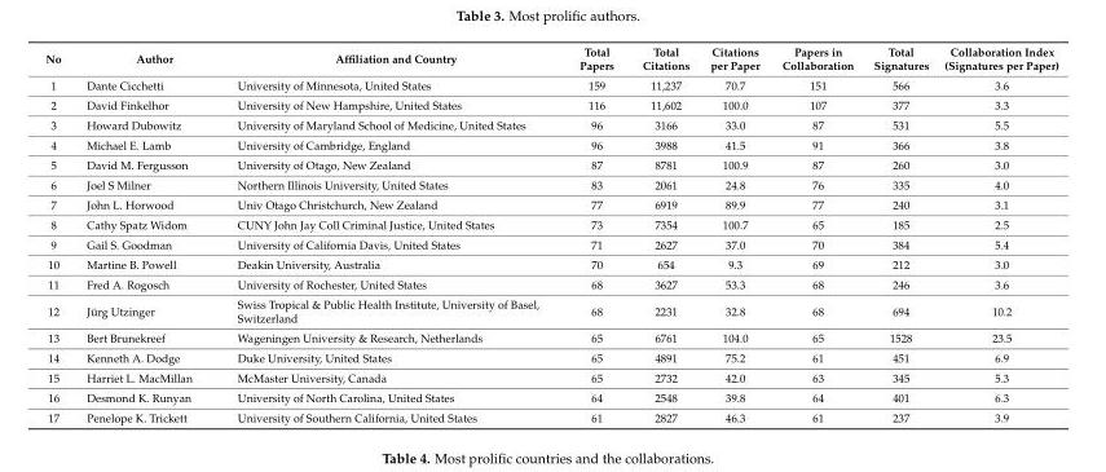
<table><thead><tr><td>No</td><td>Author</td><td>Affiliation and Country</td><td>Total Papers</td><td>Total Citations</td><td>Citations per Paper</td><td>Papers in Collaboration</td><td>Total Signatures</td><td>Collaboration Index (Signatures per Paper)</td></tr></thead><tbody><tr><td>1</td><td>Dante Cicchetti</td><td>University of Minnesota, United States</td><td>159</td><td>11,237</td><td>70.7</td><td>151</td><td>566</td><td>3.6</td></tr><tr><td>2</td><td>David Finkelhor</td><td>University of New Hampshire, United States</td><td>116</td><td>11,602</td><td>100.0</td><td>107</td><td>377</td><td>3.3</td></tr><tr><td>3</td><td>Howard Dubowitz</td><td>University of Maryland School of Medicine, United States</td><td>96</td><td>3166</td><td>33.0</td><td>87</td><td>531</td><td>5.5</td></tr><tr><td>4</td><td>Michael E. Lamb</td><td>University of Cambridge, England</td><td>96</td><td>3988</td><td>41.5</td><td>91</td><td>366</td><td>3.8</td></tr><tr><td>5</td><td>David M. Fergusson</td><td>University of Otago, New Zealand</td><td>87</td><td>8781</td><td>100.9</td><td>87</td><td>260</td><td>3.0</td></tr><tr><td>6</td><td>Joel S Milner</td><td>Northern Illinois University, United States</td><td>83</td><td>2061</td><td>24.8</td><td>76</td><td>335</td><td>4.0</td></tr><tr><td>7</td><td>John L. Horwood</td><td>Univ Otago Christchurch, New Zealand</td><td>77</td><td>6919</td><td>89.9</td><td>77</td><td>240</td><td>3.1</td></tr><tr><td>8</td><td>Cathy Spatz Widom</td><td>CUNY John Jay Coll Criminal Justice, United States</td><td>73</td><td>7354</td><td>100.7</td><td>65</td><td>185</td><td>2.5</td></tr><tr><td>9</td><td>Gail S. Goodman</td><td>University of California Davis, United States</td><td>71</td><td>2627</td><td>37.0</td><td>70</td><td>384</td><td>5.4</td></tr><tr><td>10</td><td>Martine B. Powell</td><td>Deakin University, Australia</td><td>70</td><td>654</td><td>9.3</td><td>69</td><td>212</td><td>3.0</td></tr><tr><td>11</td><td>Fred A. Rogosch</td><td>University of Rochester, United States</td><td>68</td><td>3627</td><td>53.3</td><td>68</td><td>246</td><td>3.6</td></tr><tr><td>12</td><td>Jürg Utzinger</td><td>Swiss Tropical &amp; Public Health Institute, University of Basel, Switzerland</td><td>68</td><td>2231</td><td>32.8</td><td>68</td><td>694</td><td>10.2</td></tr><tr><td>13</td><td>Bert Brunekreef</td><td>Wageningen University &amp; Research, Netherlands</td><td>65</td><td>6761</td><td>104.0</td><td>65</td><td>1528</td><td>23.5</td></tr><tr><td>14</td><td>Kenneth A. Dodge</td><td>Duke University, United States</td><td>65</td><td>4891</td><td>75.2</td><td>61</td><td>451</td><td>6.9</td></tr><tr><td>15</td><td>Harriet L. MacMillan</td><td>McMaster University, Canada</td><td>65</td><td>2732</td><td>42.0</td><td>63</td><td>345</td><td>5.3</td></tr><tr><td>16</td><td>Desmond K. Runyan</td><td>University of North Carolina, United States</td><td>64</td><td>2548</td><td>39.8</td><td>64</td><td>401</td><td>6.3</td></tr><tr><td>17</td><td>Penelope K. Trickett</td><td>University of Southern California, United States</td><td>61</td><td>2827</td><td>46.3</td><td>61</td><td>237</td><td>3.9</td></tr></tbody></table>